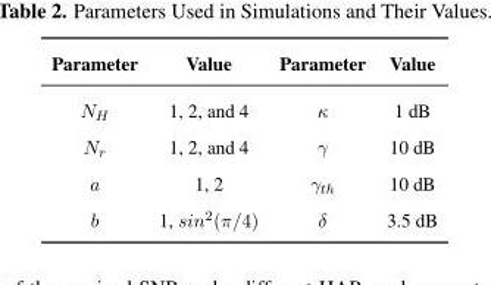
<table><thead><tr><td>Parameter</td><td>Value</td><td>Parameter</td><td>Value</td></tr></thead><tbody><tr><td>N<sub>H</sub></td><td>1, 2, and 4</td><td>κ</td><td>1 dB</td></tr><tr><td>N<sub>r</sub></td><td>1, 2, and 4</td><td>γ</td><td>10 dB</td></tr><tr><td>a</td><td>1, 2</td><td>γ<sub>th</sub></td><td>10 dB</td></tr><tr><td>b</td><td>1, sin<sup>2</sup>(π/4)</td><td>δ</td><td>3.5 dB</td></tr></tbody></table>